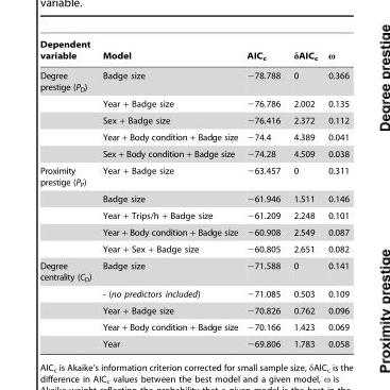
<table><thead><tr><td>Dependent variable</td><td>Model</td><td>AIC<sub>c</sub></td><td>δAIC<sub>c</sub></td><td>ω</td></tr></thead><tbody><tr><td rowspan="5">Degree prestige (P<sub>D</sub>)</td><td>Badge size</td><td>−78.788</td><td>0</td><td>0.366</td></tr><tr><td>Year + Badge size</td><td>−76.786</td><td>2.002</td><td>0.135</td></tr><tr><td>Sex + Badge size</td><td>−76.416</td><td>2.372</td><td>0.112</td></tr><tr><td>Year + Body condition + Badge size</td><td>−74.4</td><td>4.389</td><td>0.041</td></tr><tr><td>Sex + Body condition + Badge size</td><td>−74.28</td><td>4.509</td><td>0.038</td></tr><tr><td rowspan="5">Proximity prestige (P<sub>P</sub>)</td><td>Year + Badge size</td><td>−63.457</td><td>0</td><td>0.311</td></tr><tr><td>Badge size</td><td>−61.946</td><td>1.511</td><td>0.146</td></tr><tr><td>Year + Trips/h + Badge size</td><td>−61.209</td><td>2.248</td><td>0.101</td></tr><tr><td>Year + Body condition + Badge size</td><td>−60.908</td><td>2.549</td><td>0.087</td></tr><tr><td>Year + Sex + Badge size</td><td>−60.805</td><td>2.651</td><td>0.082</td></tr><tr><td rowspan="5">Degree centrality (C<sub>D</sub>)</td><td>Badge size</td><td>−71.588</td><td>0</td><td>0.141</td></tr><tr><td>- (no predictors included)</td><td>−71.085</td><td>0.503</td><td>0.109</td></tr><tr><td>Year + Badge size</td><td>−70.826</td><td>0.762</td><td>0.096</td></tr><tr><td>Year + Body condition + Badge size</td><td>−70.166</td><td>1.423</td><td>0.069</td></tr><tr><td>Year</td><td>−69.806</td><td>1.783</td><td>0.058</td></tr></tbody></table>